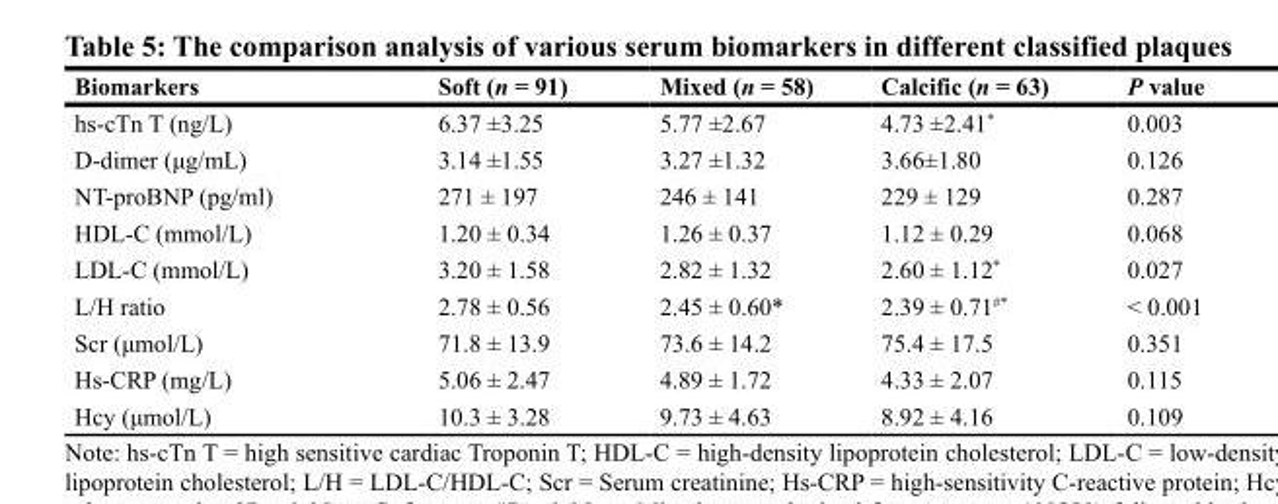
<table><thead><tr><td>Biomarkers</td><td>Soft (n = 91)</td><td>Mixed (n = 58)</td><td>Calcific (n = 63)</td><td>P value</td></tr></thead><tbody><tr><td>hs-cTn T (ng/L)</td><td>6.37 ±3.25</td><td>5.77 ±2.67</td><td>4.73 ±2.41*</td><td>0.003</td></tr><tr><td>D-dimer (μg/mL)</td><td>3.14 ±1.55</td><td>3.27 ±1.32</td><td>3.66±1.80</td><td>0.126</td></tr><tr><td>NT-proBNP (pg/ml)</td><td>271 ± 197</td><td>246 ± 141</td><td>229 ± 129</td><td>0.287</td></tr><tr><td>HDL-C (mmol/L)</td><td>1.20 ± 0.34</td><td>1.26 ± 0.37</td><td>1.12 ± 0.29</td><td>0.068</td></tr><tr><td>LDL-C (mmol/L)</td><td>3.20 ± 1.58</td><td>2.82 ± 1.32</td><td>2.60 ± 1.12*</td><td>0.027</td></tr><tr><td>L/H ratio</td><td>2.78 ± 0.56</td><td>2.45 ± 0.60*</td><td>2.39 ± 0.71<sup>#*</sup></td><td>&lt; 0.001</td></tr><tr><td>Scr (μmol/L)</td><td>71.8 ± 13.9</td><td>73.6 ± 14.2</td><td>75.4 ± 17.5</td><td>0.351</td></tr><tr><td>Hs-CRP (mg/L)</td><td>5.06 ± 2.47</td><td>4.89 ± 1.72</td><td>4.33 ± 2.07</td><td>0.115</td></tr><tr><td>Hcy (μmol/L)</td><td>10.3 ± 3.28</td><td>9.73 ± 4.63</td><td>8.92 ± 4.16</td><td>0.109</td></tr></tbody></table>